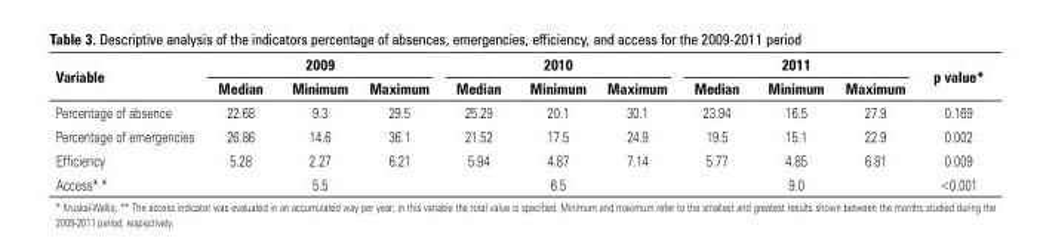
<table><thead><tr><td rowspan="2">Variable</td><td colspan="3">2009</td><td colspan="3">2010</td><td colspan="3">2011</td><td rowspan="2">p value*</td></tr><tr><td>Median</td><td>Minimum</td><td>Maximum</td><td>Median</td><td>Minimum</td><td>Maximum</td><td>Median</td><td>Minimum</td><td>Maximum</td></tr></thead><tbody><tr><td>Percentage of absence</td><td>22.68</td><td>9.3</td><td>29.5</td><td>25.29</td><td>20.1</td><td>30.1</td><td>23.94</td><td>16.5</td><td>27.9</td><td>0.169</td></tr><tr><td>Percentage of emergencies</td><td>26.86</td><td>14.6</td><td>36.1</td><td>21.52</td><td>17.5</td><td>24.9</td><td>19.5</td><td>15.1</td><td>22.9</td><td>0.002</td></tr><tr><td>Efficiency</td><td>5.28</td><td>2.27</td><td>6.21</td><td>5.94</td><td>4.87</td><td>7.14</td><td>5.77</td><td>4.85</td><td>6.81</td><td>0.009</td></tr><tr><td>Access* *</td><td colspan="3">5.5</td><td colspan="3">6.5</td><td colspan="3">9.0</td><td>&lt;0.001</td></tr></tbody></table>